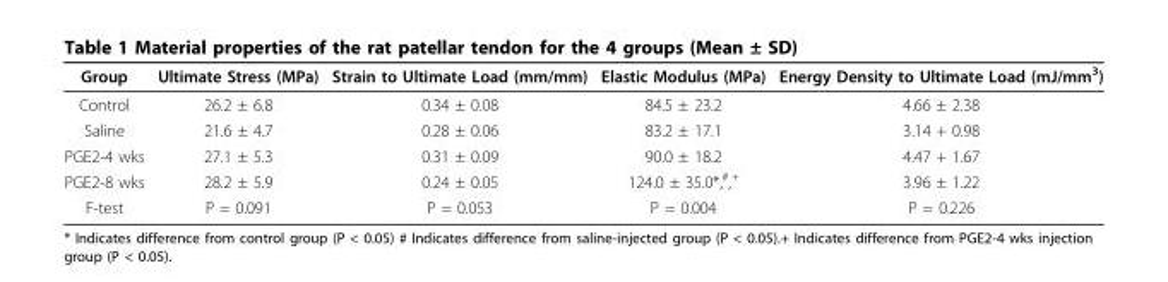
<table><thead><tr><td>Group</td><td>Ultimate Stress (MPa)</td><td>Strain to Ultimate Load (mm/mm)</td><td>Elastic Modulus (MPa)</td><td>Energy Density to Ultimate Load (mJ/mm<sup>3</sup>)</td></tr></thead><tbody><tr><td>Control</td><td>26.2 ± 6.8</td><td>0.34 ± 0.08</td><td>84.5 ± 23.2</td><td>4.66 ± 2.38</td></tr><tr><td>Saline</td><td>21.6 ± 4.7</td><td>0.28 ± 0.06</td><td>83.2 ± 17.1</td><td>3.14 + 0.98</td></tr><tr><td>PGE2-4 wks</td><td>27.1 ± 5.3</td><td>0.31 ± 0.09</td><td>90.0 ± 18.2</td><td>4.47 + 1.67</td></tr><tr><td>PGE2-8 wks</td><td>28.2 ± 5.9</td><td>0.24 ± 0.05</td><td>124.0 ± 35.0*,<sup>#</sup>,<sup>+</sup></td><td>3.96 ± 1.22</td></tr><tr><td>F-test</td><td>P = 0.091</td><td>P = 0.053</td><td>P = 0.004</td><td>P = 0.226</td></tr></tbody></table>